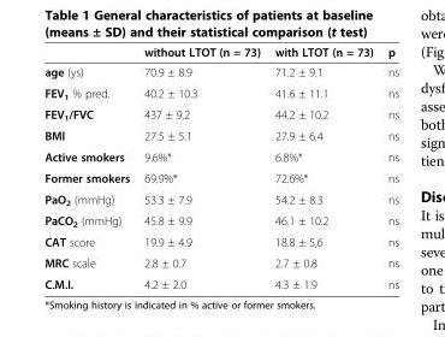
<table><thead><tr><td></td><td>without LTOT (n = 73)</td><td>with LTOT (n = 73)</td><td>p</td></tr></thead><tbody><tr><td>age (ys)</td><td>70.9 ± 8.9</td><td>71.2 ± 9.1</td><td>ns</td></tr><tr><td>FEV<sub>1</sub> % pred.</td><td>40.2 ± 10.3</td><td>41.6 ± 11.1</td><td>ns</td></tr><tr><td>FEV<sub>1</sub>/FVC</td><td>437 ± 9.2</td><td>44.2 ± 10.2</td><td>ns</td></tr><tr><td>BMI</td><td>27.5 ± 5.1</td><td>27.9 ± 6.4</td><td>ns</td></tr><tr><td>Active smokers</td><td>9.6%*</td><td>6.8%*</td><td>ns</td></tr><tr><td>Former smokers</td><td>69.9%*</td><td>72.6%*</td><td>ns</td></tr><tr><td>PaO<sub>2</sub> (mmHg)</td><td>53.3 ± 7.9</td><td>54.2 ± 8.3</td><td>ns</td></tr><tr><td>PaCO<sub>2</sub> (mmHg)</td><td>45.8 ± 9.9</td><td>46.1 ± 10.2</td><td>ns</td></tr><tr><td>CAT score</td><td>19.9 ± 4.9</td><td>18.8 ± 5,6</td><td>ns</td></tr><tr><td>MRC scale</td><td>2.8 ± 0.7</td><td>2.7 ± 0.8</td><td>ns</td></tr><tr><td>C.M.I.</td><td>4.2 ± 2.0</td><td>4.3 ± 1.9</td><td>ns</td></tr></tbody></table>